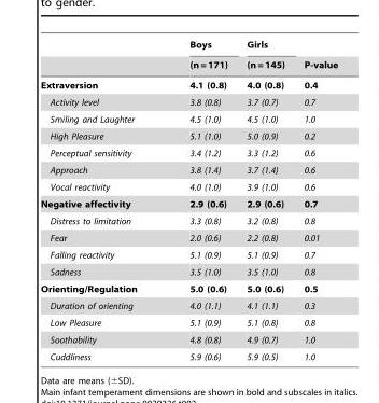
<table><thead><tr><td rowspan="2"></td><td rowspan="2">Boys (n = 171)</td><td rowspan="2">Girls (n = 145)</td><td rowspan="2">P-value</td></tr><tr></tr></thead><tbody><tr><td>Extraversion</td><td>4.1 (0.8)</td><td>4.0 (0.8)</td><td>0.4</td></tr><tr><td>Activity level</td><td>3.8 (0.8)</td><td>3.7 (0.7)</td><td>0.7</td></tr><tr><td>Smiling and Laughter</td><td>4.5 (1.0)</td><td>4.5 (1.0)</td><td>1.0</td></tr><tr><td>High Pleasure</td><td>5.1 (1.0)</td><td>5.0 (0.9)</td><td>0.2</td></tr><tr><td>Perceptual sensitivity</td><td>3.4 (1.2)</td><td>3.3 (1.2)</td><td>0.6</td></tr><tr><td>Approach</td><td>3.8 (1.4)</td><td>3.7 (1.4)</td><td>0.6</td></tr><tr><td>Vocal reactivity</td><td>4.0 (1.0)</td><td>3.9 (1.0)</td><td>0.6</td></tr><tr><td>Negative affectivity</td><td>2.9 (0.6)</td><td>2.9 (0.6)</td><td>0.7</td></tr><tr><td>Distress to limitation</td><td>3.3 (0.8)</td><td>3.2 (0.8)</td><td>0.8</td></tr><tr><td>Fear</td><td>2.0 (0.6)</td><td>2.2 (0.8)</td><td>0.01</td></tr><tr><td>Falling reactivity</td><td>5.1 (0.9)</td><td>5.1 (0.9)</td><td>0.7</td></tr><tr><td>Sadness</td><td>3.5 (1.0)</td><td>3.5 (1.0)</td><td>0.8</td></tr><tr><td>Orienting/Regulation</td><td>5.0 (0.6)</td><td>5.0 (0.6)</td><td>0.5</td></tr><tr><td>Duration of orienting</td><td>4.0 (1.1)</td><td>4.1 (1.1)</td><td>0.3</td></tr><tr><td>Low Pleasure</td><td>5.1 (0.9)</td><td>5.1 (0.8)</td><td>0.8</td></tr><tr><td>Soothability</td><td>4.8 (0.8)</td><td>4.9 (0.7)</td><td>1.0</td></tr><tr><td>Cuddliness</td><td>5.9 (0.6)</td><td>5.9 (0.5)</td><td>1.0</td></tr></tbody></table>